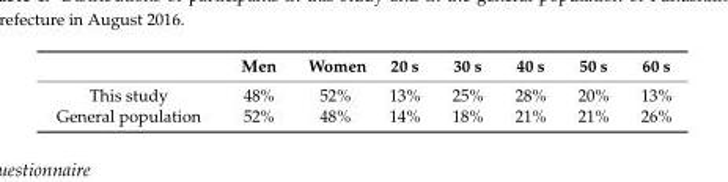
<table><thead><tr><td></td><td>Men</td><td>Women</td><td>20 s</td><td>30 s</td><td>40 s</td><td>50 s</td><td>60 s</td></tr></thead><tbody><tr><td>This study</td><td>48%</td><td>52%</td><td>13%</td><td>25%</td><td>28%</td><td>20%</td><td>13%</td></tr><tr><td>General population</td><td>52%</td><td>48%</td><td>14%</td><td>18%</td><td>21%</td><td>21%</td><td>26%</td></tr></tbody></table>